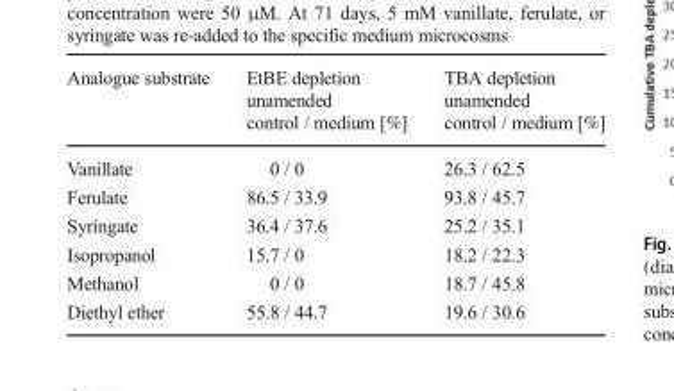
<table><thead><tr><td>Analogue substrate</td><td>EtBE depletion unamended control / medium [%]</td><td>TBA depletion unamended control / medium [%]</td></tr></thead><tbody><tr><td>Vanillate</td><td>0 / 0</td><td>26.3 / 62.5</td></tr><tr><td>Ferulate</td><td>86.5 / 33.9</td><td>93.8 / 45.7</td></tr><tr><td>Syringate</td><td>36.4 / 37.6</td><td>25.2 / 35.1</td></tr><tr><td>Isopropanol</td><td>15.7 / 0</td><td>18.2 / 22.3</td></tr><tr><td>Methanol</td><td>0 / 0</td><td>18.7 / 45.8</td></tr><tr><td>Diethyl ether</td><td>55.8 / 44.7</td><td>19.6 / 30.6</td></tr></tbody></table>